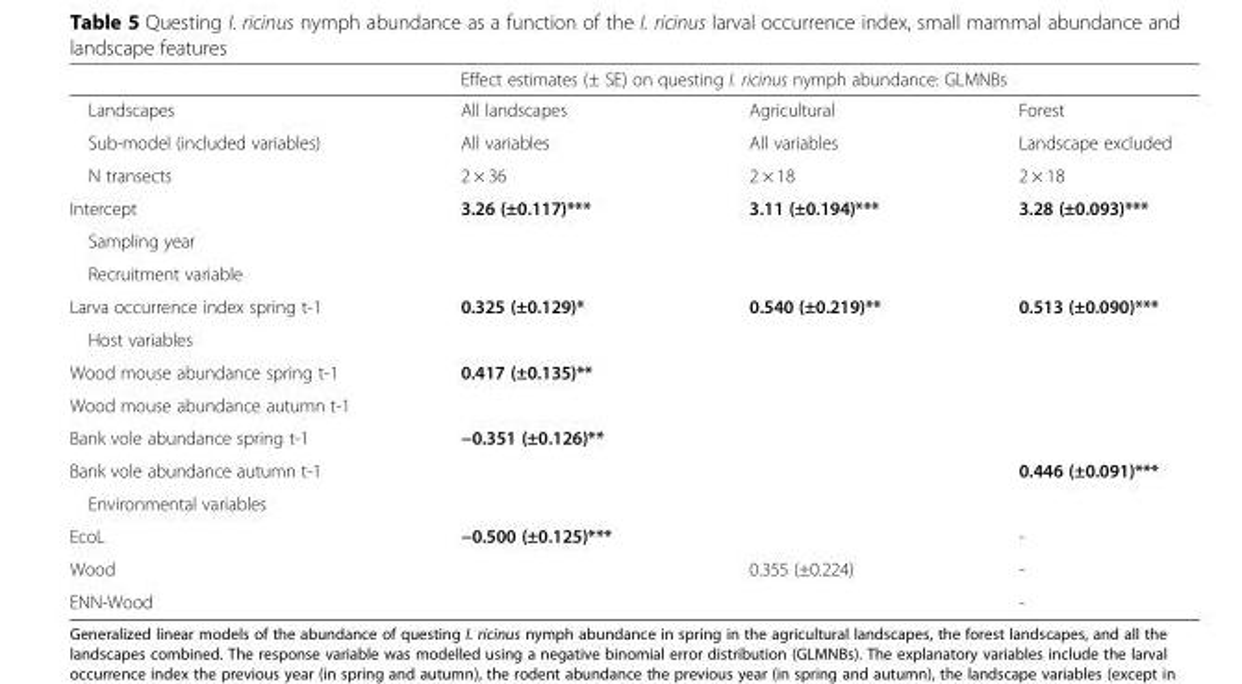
<table><thead><tr><td rowspan="2">Landscapes</td><td colspan="3">Effect estimates (± SE) on questing I. ricinus nymph abundance: GLMNBs</td></tr><tr><td>All landscapes</td><td>Agricultural</td><td>Forest</td></tr></thead><tbody><tr><td>Sub-model (included variables)</td><td>All variables</td><td>All variables</td><td>Landscape excluded</td></tr><tr><td>N transects</td><td>2 × 36</td><td>2 × 18</td><td>2 × 18</td></tr><tr><td>Intercept</td><td>3.26 (±0.117)***</td><td>3.11 (±0.194)***</td><td>3.28 (±0.093)***</td></tr><tr><td colspan="4">Sampling year</td></tr><tr><td colspan="4">Recruitment variable</td></tr><tr><td>Larva occurrence index spring t-1</td><td>0.325 (±0.129)*</td><td>0.540 (±0.219)**</td><td>0.513 (±0.090)***</td></tr><tr><td colspan="4">Host variables</td></tr><tr><td>Wood mouse abundance spring t-1</td><td>0.417 (±0.135)**</td><td></td><td></td></tr><tr><td colspan="4">Wood mouse abundance autumn t-1</td></tr><tr><td>Bank vole abundance spring t-1</td><td>−0.351 (±0.126)**</td><td></td><td></td></tr><tr><td>Bank vole abundance autumn t-1</td><td></td><td></td><td>0.446 (±0.091)***</td></tr><tr><td colspan="4">Environmental variables</td></tr><tr><td>EcoL</td><td>−0.500 (±0.125)***</td><td></td><td>-</td></tr><tr><td>Wood</td><td></td><td>0.355 (±0.224)</td><td>-</td></tr><tr><td>ENN-Wood</td><td></td><td></td><td>-</td></tr></tbody></table>